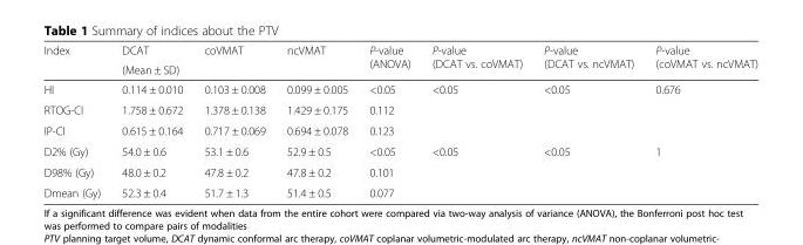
<table><thead><tr><td rowspan="2">Index</td><td>DCAT</td><td>coVMAT</td><td>ncVMAT</td><td rowspan="2">P-value (ANOVA)</td><td rowspan="2">P-value (DCAT vs. coVMAT)</td><td rowspan="2">P-value (DCAT vs. ncVMAT)</td><td rowspan="2">P-value (coVMAT vs. ncVMAT)</td></tr><tr><td colspan="3">(Mean ± SD)</td></tr></thead><tbody><tr><td>HI</td><td>0.114 ± 0.010</td><td>0.103 ± 0.008</td><td>0.099 ± 0.005</td><td>&lt;0.05</td><td>&lt;0.05</td><td>&lt;0.05</td><td>0.676</td></tr><tr><td>RTOG-CI</td><td>1.758 ± 0.672</td><td>1.378 ± 0.138</td><td>1.429 ± 0.175</td><td>0.112</td><td></td><td></td><td></td></tr><tr><td>IP-CI</td><td>0.615 ± 0.164</td><td>0.717 ± 0.069</td><td>0.694 ± 0.078</td><td>0.123</td><td></td><td></td><td></td></tr><tr><td>D2% (Gy)</td><td>54.0 ± 0.6</td><td>53.1 ± 0.6</td><td>52.9 ± 0.5</td><td>&lt;0.05</td><td>&lt;0.05</td><td>&lt;0.05</td><td>1</td></tr><tr><td>D98% (Gy)</td><td>48.0 ± 0.2</td><td>47.8 ± 0.2</td><td>47.8 ± 0.2</td><td>0.101</td><td></td><td></td><td></td></tr><tr><td>Dmean (Gy)</td><td>52.3 ± 0.4</td><td>51.7 ± 1.3</td><td>51.4 ± 0.5</td><td>0.077</td><td></td><td></td><td></td></tr></tbody></table>